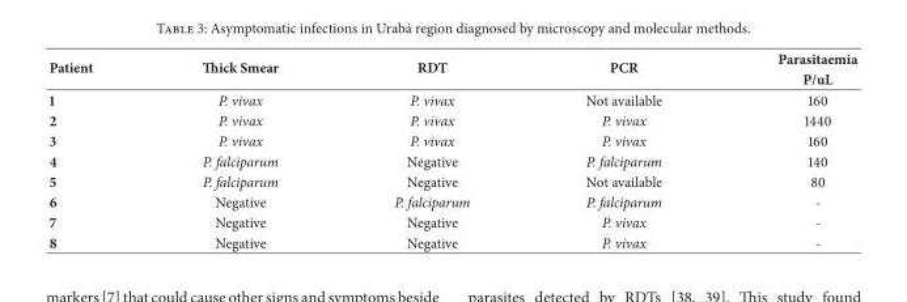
<table><thead><tr><td rowspan="2">Patient</td><td rowspan="2">Thick Smear</td><td rowspan="2">RDT</td><td rowspan="2">PCR</td><td rowspan="2">Parasitaemia P/uL</td></tr><tr></tr></thead><tbody><tr><td>1</td><td>P. vivax</td><td>P. vivax</td><td>Not available</td><td>160</td></tr><tr><td>2</td><td>P. vivax</td><td>P. vivax</td><td>P. vivax</td><td>1440</td></tr><tr><td>3</td><td>P. vivax</td><td>P. vivax</td><td>P. vivax</td><td>160</td></tr><tr><td>4</td><td>P. falciparum</td><td>Negative</td><td>P. falciparum</td><td>140</td></tr><tr><td>5</td><td>P. falciparum</td><td>Negative</td><td>Not available</td><td>80</td></tr><tr><td>6</td><td>Negative</td><td>P. falciparum</td><td>P. falciparum</td><td>-</td></tr><tr><td>7</td><td>Negative</td><td>Negative</td><td>P. vivax</td><td>-</td></tr><tr><td>8</td><td>Negative</td><td>Negative</td><td>P. vivax</td><td>-</td></tr></tbody></table>